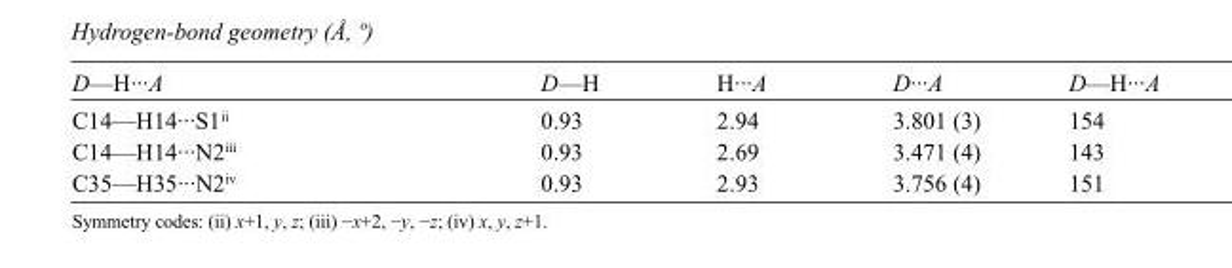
<table><tbody><tr><td>D—H···A</td><td>D—H</td><td>H···A</td><td>D···A</td><td>D—H···A</td></tr><tr><td>C14—H14···S1<sup>ii</sup></td><td>0.93</td><td>2.94</td><td>3.801 (3)</td><td>154</td></tr><tr><td>C14—H14···N2<sup>iii</sup></td><td>0.93</td><td>2.69</td><td>3.471 (4)</td><td>143</td></tr><tr><td>C35—H35···N2<sup>iv</sup></td><td>0.93</td><td>2.93</td><td>3.756 (4)</td><td>151</td></tr></tbody></table>